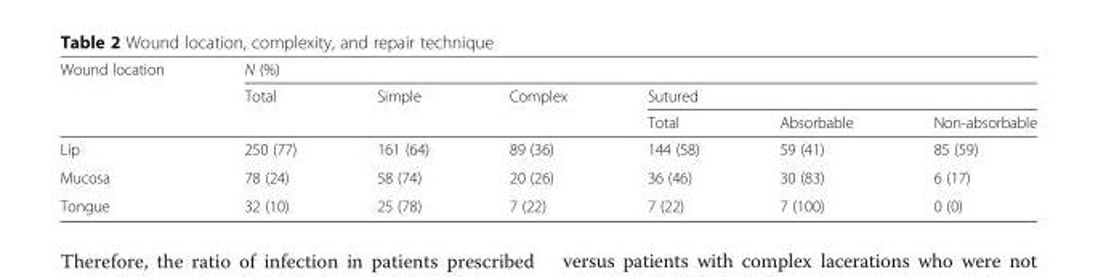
<table><thead><tr><td rowspan="3">Wound location</td><td colspan="6">N (%)</td></tr><tr><td rowspan="2">Total</td><td rowspan="2">Simple</td><td rowspan="2">Complex</td><td colspan="3">Sutured</td></tr><tr><td>Total</td><td>Absorbable</td><td>Non-absorbable</td></tr></thead><tbody><tr><td>Lip</td><td>250 (77)</td><td>161 (64)</td><td>89 (36)</td><td>144 (58)</td><td>59 (41)</td><td>85 (59)</td></tr><tr><td>Mucosa</td><td>78 (24)</td><td>58 (74)</td><td>20 (26)</td><td>36 (46)</td><td>30 (83)</td><td>6 (17)</td></tr><tr><td>Tongue</td><td>32 (10)</td><td>25 (78)</td><td>7 (22)</td><td>7 (22)</td><td>7 (100)</td><td>0 (0)</td></tr></tbody></table>